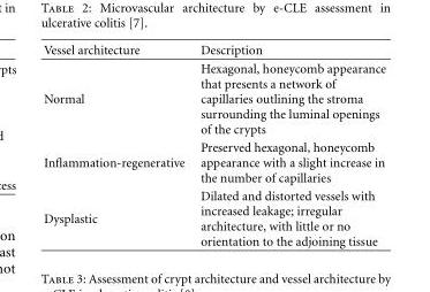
<table><thead><tr><td>Vessel architecture</td><td>Description</td></tr></thead><tbody><tr><td>Normal</td><td>Hexagonal, honeycomb appearance that presents a network of capillaries outlining the stroma surrounding the luminal openings of the crypts</td></tr><tr><td>Inflammation-regenerative</td><td>Preserved hexagonal, honeycomb appearance with a slight increase in the number of capillaries</td></tr><tr><td>Dysplastic</td><td>Dilated and distorted vessels with increased leakage; irregular architecture, with little or no orientation to the adjoining tissue</td></tr></tbody></table>